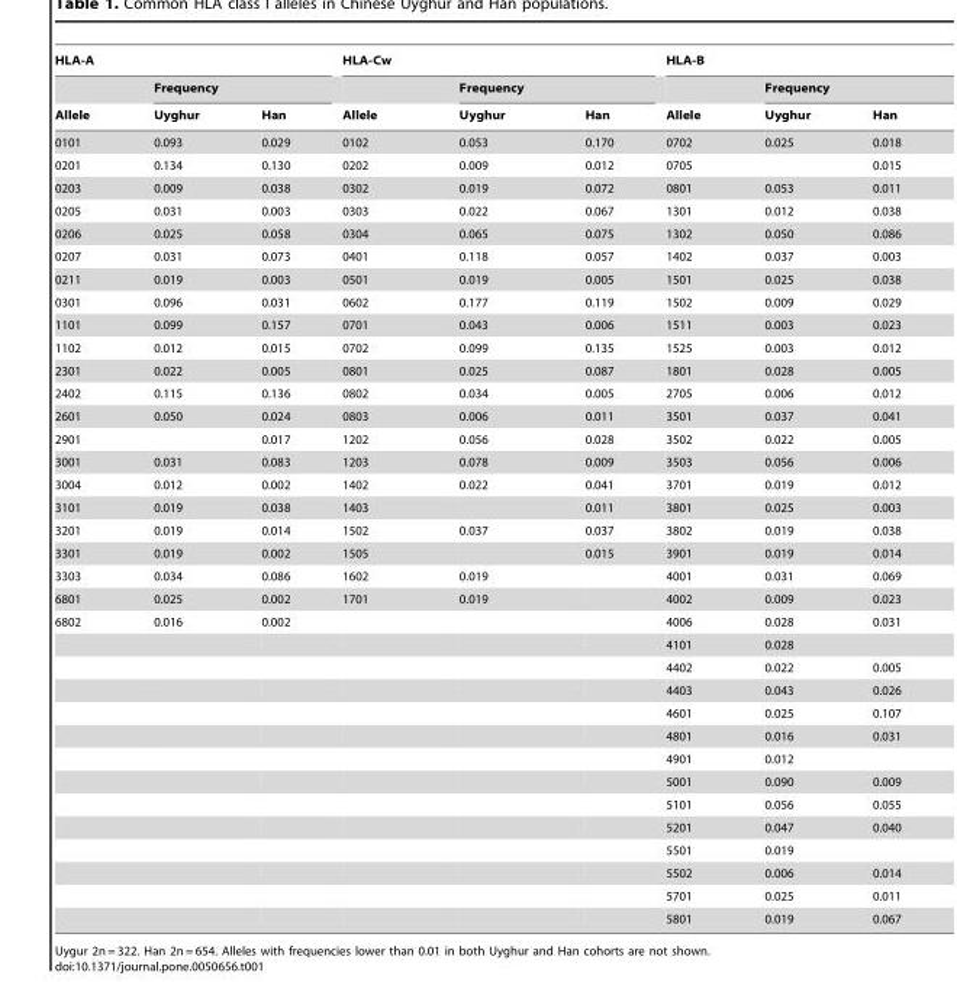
<table><thead><tr><td colspan="3">HLA-A</td><td colspan="3">HLA-Cw</td><td colspan="3">HLA-B</td></tr><tr><td rowspan="2">Allele</td><td colspan="2">Frequency</td><td rowspan="2">Allele</td><td colspan="2">Frequency</td><td rowspan="2">Allele</td><td colspan="2">Frequency</td></tr><tr><td>Uyghur</td><td>Han</td><td>Uyghur</td><td>Han</td><td>Uyghur</td><td>Han</td></tr></thead><tbody><tr><td>0101</td><td>0.093</td><td>0.029</td><td>0102</td><td>0.053</td><td>0.170</td><td>0702</td><td>0.025</td><td>0.018</td></tr><tr><td>0201</td><td>0.134</td><td>0.130</td><td>0202</td><td>0.009</td><td>0.012</td><td>0705</td><td></td><td>0.015</td></tr><tr><td>0203</td><td>0.009</td><td>0.038</td><td>0302</td><td>0.019</td><td>0.072</td><td>0801</td><td>0.053</td><td>0.011</td></tr><tr><td>0205</td><td>0.031</td><td>0.003</td><td>0303</td><td>0.022</td><td>0.067</td><td>1301</td><td>0.012</td><td>0.038</td></tr><tr><td>0206</td><td>0.025</td><td>0.058</td><td>0304</td><td>0.065</td><td>0.075</td><td>1302</td><td>0.050</td><td>0.086</td></tr><tr><td>0207</td><td>0.031</td><td>0.073</td><td>0401</td><td>0.118</td><td>0.057</td><td>1402</td><td>0.037</td><td>0.003</td></tr><tr><td>0211</td><td>0.019</td><td>0.003</td><td>0501</td><td>0.019</td><td>0.005</td><td>1501</td><td>0.025</td><td>0.038</td></tr><tr><td>0301</td><td>0.096</td><td>0.031</td><td>0602</td><td>0.177</td><td>0.119</td><td>1502</td><td>0.009</td><td>0.029</td></tr><tr><td>1101</td><td>0.099</td><td>0.157</td><td>0701</td><td>0.043</td><td>0.006</td><td>1511</td><td>0.003</td><td>0.023</td></tr><tr><td>1102</td><td>0.012</td><td>0.015</td><td>0702</td><td>0.099</td><td>0.135</td><td>1525</td><td>0.003</td><td>0.012</td></tr><tr><td>2301</td><td>0.022</td><td>0.005</td><td>0801</td><td>0.025</td><td>0.087</td><td>1801</td><td>0.028</td><td>0.005</td></tr><tr><td>2402</td><td>0.115</td><td>0.136</td><td>0802</td><td>0.034</td><td>0.005</td><td>2705</td><td>0.006</td><td>0.012</td></tr><tr><td>2601</td><td>0.050</td><td>0.024</td><td>0803</td><td>0.006</td><td>0.011</td><td>3501</td><td>0.037</td><td>0.041</td></tr><tr><td>2901</td><td></td><td>0.017</td><td>1202</td><td>0.056</td><td>0.028</td><td>3502</td><td>0.022</td><td>0.005</td></tr><tr><td>3001</td><td>0.031</td><td>0.083</td><td>1203</td><td>0.078</td><td>0.009</td><td>3503</td><td>0.056</td><td>0.006</td></tr><tr><td>3004</td><td>0.012</td><td>0.002</td><td>1402</td><td>0.022</td><td>0.041</td><td>3701</td><td>0.019</td><td>0.012</td></tr><tr><td>3101</td><td>0.019</td><td>0.038</td><td>1403</td><td></td><td>0.011</td><td>3801</td><td>0.025</td><td>0.003</td></tr><tr><td>3201</td><td>0.019</td><td>0.014</td><td>1502</td><td>0.037</td><td>0.037</td><td>3802</td><td>0.019</td><td>0.038</td></tr><tr><td>3301</td><td>0.019</td><td>0.002</td><td>1505</td><td></td><td>0.015</td><td>3901</td><td>0.019</td><td>0.014</td></tr><tr><td>3303</td><td>0.034</td><td>0.086</td><td>1602</td><td>0.019</td><td></td><td>4001</td><td>0.031</td><td>0.069</td></tr><tr><td>6801</td><td>0.025</td><td>0.002</td><td>1701</td><td>0.019</td><td></td><td>4002</td><td>0.009</td><td>0.023</td></tr><tr><td rowspan="14">6802</td><td>0.016</td><td>0.002</td><td></td><td></td><td></td><td>4006</td><td>0.028</td><td>0.031</td></tr><tr><td></td><td></td><td></td><td></td><td></td><td>4101</td><td>0.028</td><td></td></tr><tr><td></td><td></td><td></td><td></td><td></td><td>4402</td><td>0.022</td><td>0.005</td></tr><tr><td></td><td></td><td></td><td></td><td></td><td>4403</td><td>0.043</td><td>0.026</td></tr><tr><td></td><td></td><td></td><td></td><td></td><td>4601</td><td>0.025</td><td>0.107</td></tr><tr><td></td><td></td><td></td><td></td><td></td><td>4801</td><td>0.016</td><td>0.031</td></tr><tr><td></td><td></td><td></td><td></td><td></td><td>4901</td><td>0.012</td><td></td></tr><tr><td></td><td></td><td></td><td></td><td></td><td>5001</td><td>0.090</td><td>0.009</td></tr><tr><td></td><td></td><td></td><td></td><td></td><td>5101</td><td>0.056</td><td>0.055</td></tr><tr><td></td><td></td><td></td><td></td><td></td><td>5201</td><td>0.047</td><td>0.040</td></tr><tr><td></td><td></td><td></td><td></td><td></td><td>5501</td><td>0.019</td><td></td></tr><tr><td></td><td></td><td></td><td></td><td></td><td>5502</td><td>0.006</td><td>0.014</td></tr><tr><td></td><td></td><td></td><td></td><td></td><td>5701</td><td>0.025</td><td>0.011</td></tr><tr><td></td><td></td><td></td><td></td><td></td><td>5801</td><td>0.019</td><td>0.067</td></tr></tbody></table>